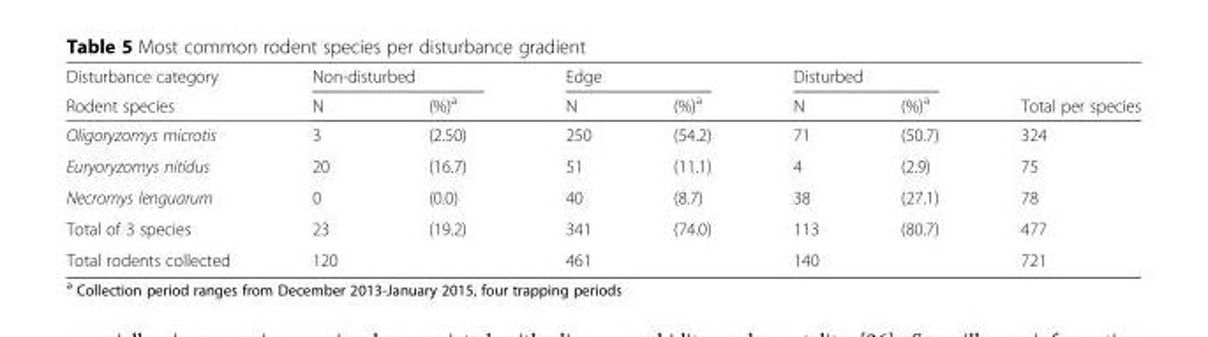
<table><thead><tr><td rowspan="2">Disturbance category Rodent species</td><td colspan="2">Non-disturbed</td><td colspan="2">Edge</td><td colspan="2">Disturbed</td><td rowspan="2">Total per species</td></tr><tr><td>N</td><td>(%)<sup>a</sup></td><td>N</td><td>(%)<sup>a</sup></td><td>N</td><td>(%)<sup>a</sup></td></tr></thead><tbody><tr><td>Oligoryzomys microtis</td><td>3</td><td>(2.50)</td><td>250</td><td>(54.2)</td><td>71</td><td>(50.7)</td><td>324</td></tr><tr><td>Euryoryzomys nitidus</td><td>20</td><td>(16.7)</td><td>51</td><td>(11.1)</td><td>4</td><td>(2.9)</td><td>75</td></tr><tr><td>Necromys lenguarum</td><td>0</td><td>(0.0)</td><td>40</td><td>(8.7)</td><td>38</td><td>(27.1)</td><td>78</td></tr><tr><td>Total of 3 species</td><td>23</td><td>(19.2)</td><td>341</td><td>(74.0)</td><td>113</td><td>(80.7)</td><td>477</td></tr><tr><td>Total rodents collected</td><td colspan="2">120</td><td colspan="2">461</td><td colspan="2">140</td><td>721</td></tr></tbody></table>